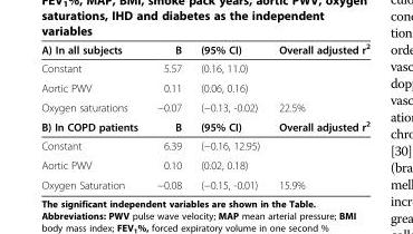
<table><thead><tr><td>A) In all subjects</td><td>B</td><td>(95% CI)</td><td>Overall adjusted r<sup>2</sup></td></tr></thead><tbody><tr><td>Constant</td><td>5.57</td><td>(0.16, 11.0)</td><td></td></tr><tr><td>Aortic PWV</td><td>0.11</td><td>(0.06, 0.16)</td><td></td></tr><tr><td>Oxygen saturations</td><td>−0.07</td><td>(−0.13, -0.02)</td><td>22.5%</td></tr><tr><td>B) In COPD patients</td><td>B</td><td>(95% CI)</td><td>Overall adjusted r<sup>2</sup></td></tr><tr><td>Constant</td><td>6.39</td><td>(−0.16, 12.95)</td><td></td></tr><tr><td>Aortic PWV</td><td>0.10</td><td>(0.02, 0.18)</td><td></td></tr><tr><td>Oxygen Saturation</td><td>−0.08</td><td>(−0.15, -0.01)</td><td>15.9%</td></tr></tbody></table>